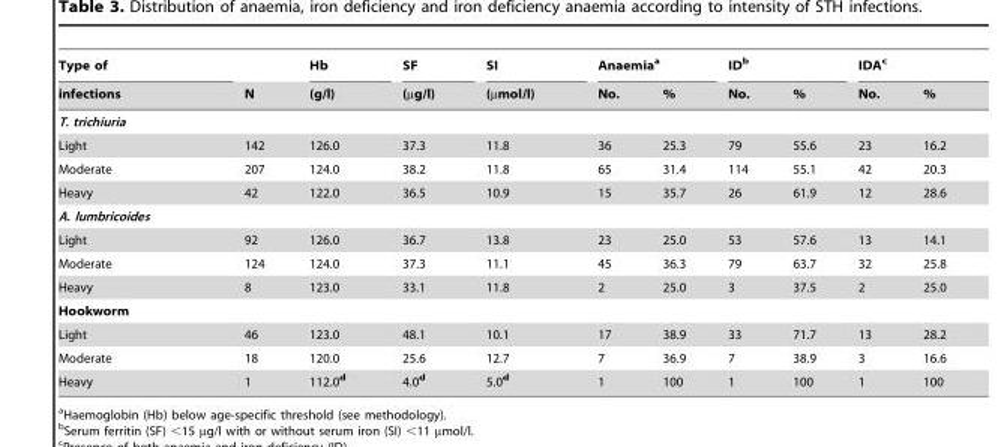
<table><thead><tr><td rowspan="2">Type of infections</td><td rowspan="2">N</td><td rowspan="2">Hb (g/l)</td><td rowspan="2">SF (µg/l)</td><td rowspan="2">SI (µmol/l)</td><td colspan="2">Anaemia<sup>a</sup></td><td colspan="2">ID<sup>b</sup></td><td colspan="2">IDA<sup>c</sup></td></tr><tr><td>No.</td><td>%</td><td>No.</td><td>%</td><td>No.</td><td>%</td></tr></thead><tbody><tr><td colspan="11">T. trichiuria</td></tr><tr><td>Light</td><td>142</td><td>126.0</td><td>37.3</td><td>11.8</td><td>36</td><td>25.3</td><td>79</td><td>55.6</td><td>23</td><td>16.2</td></tr><tr><td>Moderate</td><td>207</td><td>124.0</td><td>38.2</td><td>11.8</td><td>65</td><td>31.4</td><td>114</td><td>55.1</td><td>42</td><td>20.3</td></tr><tr><td>Heavy</td><td>42</td><td>122.0</td><td>36.5</td><td>10.9</td><td>15</td><td>35.7</td><td>26</td><td>61.9</td><td>12</td><td>28.6</td></tr><tr><td colspan="11">A. lumbricoides</td></tr><tr><td>Light</td><td>92</td><td>126.0</td><td>36.7</td><td>13.8</td><td>23</td><td>25.0</td><td>53</td><td>57.6</td><td>13</td><td>14.1</td></tr><tr><td>Moderate</td><td>124</td><td>124.0</td><td>37.3</td><td>11.1</td><td>45</td><td>36.3</td><td>79</td><td>63.7</td><td>32</td><td>25.8</td></tr><tr><td>Heavy</td><td>8</td><td>123.0</td><td>33.1</td><td>11.8</td><td>2</td><td>25.0</td><td>3</td><td>37.5</td><td>2</td><td>25.0</td></tr><tr><td colspan="11">Hookworm</td></tr><tr><td>Light</td><td>46</td><td>123.0</td><td>48.1</td><td>10.1</td><td>17</td><td>38.9</td><td>33</td><td>71.7</td><td>13</td><td>28.2</td></tr><tr><td>Moderate</td><td>18</td><td>120.0</td><td>25.6</td><td>12.7</td><td>7</td><td>36.9</td><td>7</td><td>38.9</td><td>3</td><td>16.6</td></tr><tr><td>Heavy</td><td>1</td><td>112.0<sup>d</sup></td><td>4.0<sup>d</sup></td><td>5.0<sup>d</sup></td><td>1</td><td>100</td><td>1</td><td>100</td><td>1</td><td>100</td></tr></tbody></table>